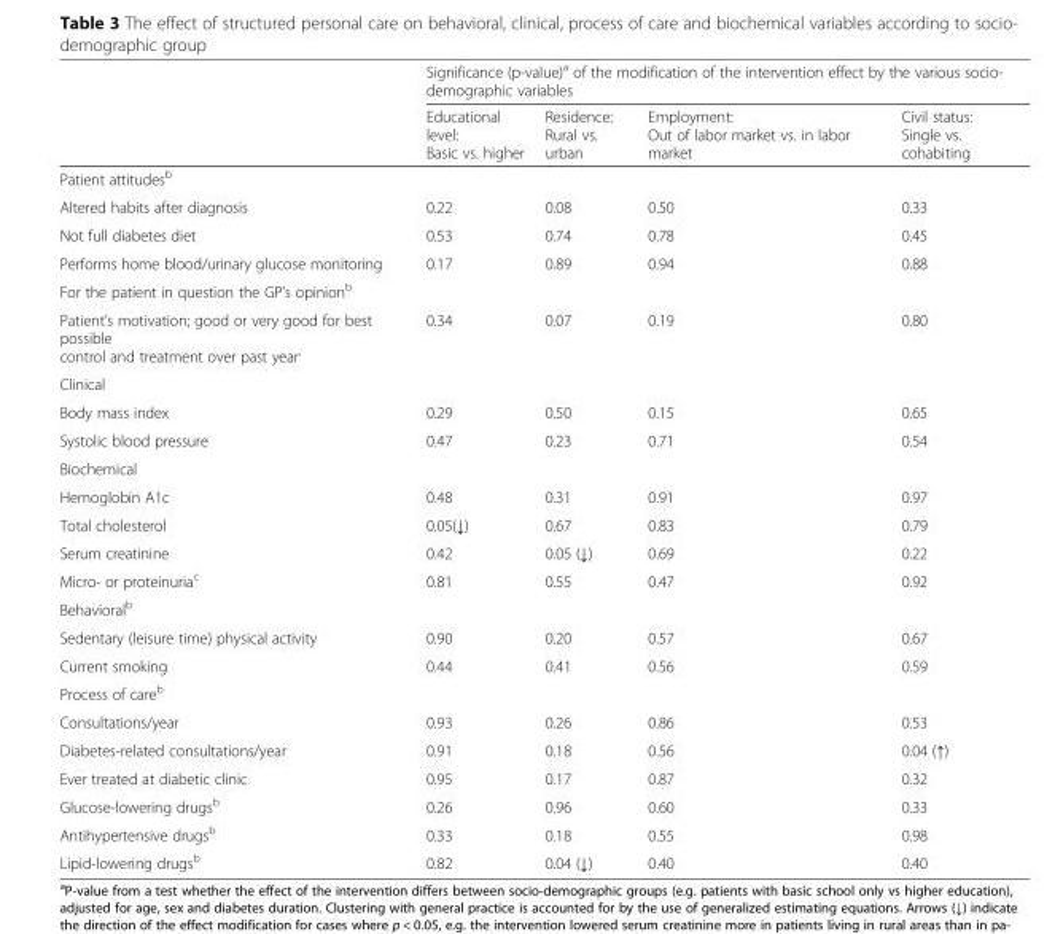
<table><thead><tr><td rowspan="2"></td><td colspan="4">Significance (p-value)<sup>a</sup> of the modification of the intervention effect by the various socio- demographic variables</td></tr><tr><td>Educational level: Basic vs. higher</td><td>Residence: Rural vs. urban</td><td>Employment: Out of labor market vs. in labor market</td><td>Civil status: Single vs. cohabiting</td></tr></thead><tbody><tr><td colspan="5">Patient attitudes<sup>b</sup></td></tr><tr><td>Altered habits after diagnosis</td><td>0.22</td><td>0.08</td><td>0.50</td><td>0.33</td></tr><tr><td>Not full diabetes diet</td><td>0.53</td><td>0.74</td><td>0.78</td><td>0.45</td></tr><tr><td>Performs home blood/urinary glucose monitoring</td><td>0.17</td><td>0.89</td><td>0.94</td><td>0.88</td></tr><tr><td colspan="5">For the patient in question the GP’s opinion<sup>b</sup></td></tr><tr><td>Patient’s motivation; good or very good for best possible control and treatment over past year<sup>,</sup></td><td>0.34</td><td>0.07</td><td>0.19</td><td>0.80</td></tr><tr><td colspan="5">Clinical</td></tr><tr><td>Body mass index</td><td>0.29</td><td>0.50</td><td>0.15</td><td>0.65</td></tr><tr><td>Systolic blood pressure</td><td>0.47</td><td>0.23</td><td>0.71</td><td>0.54</td></tr><tr><td colspan="5">Biochemical</td></tr><tr><td>Hemoglobin A1c</td><td>0.48</td><td>0.31</td><td>0.91</td><td>0.97</td></tr><tr><td>Total cholesterol</td><td>0.05(↓)</td><td>0.67</td><td>0.83</td><td>0.79</td></tr><tr><td>Serum creatinine</td><td>0.42</td><td>0.05 (↓)</td><td>0.69</td><td>0.22</td></tr><tr><td>Micro- or proteinuria<sup>c</sup></td><td>0.81</td><td>0.55</td><td>0.47</td><td>0.92</td></tr><tr><td colspan="5">Behavioral<sup>b</sup></td></tr><tr><td>Sedentary (leisure time) physical activity</td><td>0.90</td><td>0.20</td><td>0.57</td><td>0.67</td></tr><tr><td>Current smoking</td><td>0.44</td><td>0.41</td><td>0.56</td><td>0.59</td></tr><tr><td colspan="5">Process of care<sup>b</sup></td></tr><tr><td>Consultations/year</td><td>0.93</td><td>0.26</td><td>0.86</td><td>0.53</td></tr><tr><td>Diabetes-related consultations/year</td><td>0.91</td><td>0.18</td><td>0.56</td><td>0.04 (↑)</td></tr><tr><td>Ever treated at diabetic clinic</td><td>0.95</td><td>0.17</td><td>0.87</td><td>0.32</td></tr><tr><td>Glucose-lowering drugs<sup>b</sup></td><td>0.26</td><td>0.96</td><td>0.60</td><td>0.33</td></tr><tr><td>Antihypertensive drugs<sup>b</sup></td><td>0.33</td><td>0.18</td><td>0.55</td><td>0.98</td></tr><tr><td>Lipid-lowering drugs<sup>b</sup></td><td>0.82</td><td>0.04 (↓)</td><td>0.40</td><td>0.40</td></tr></tbody></table>